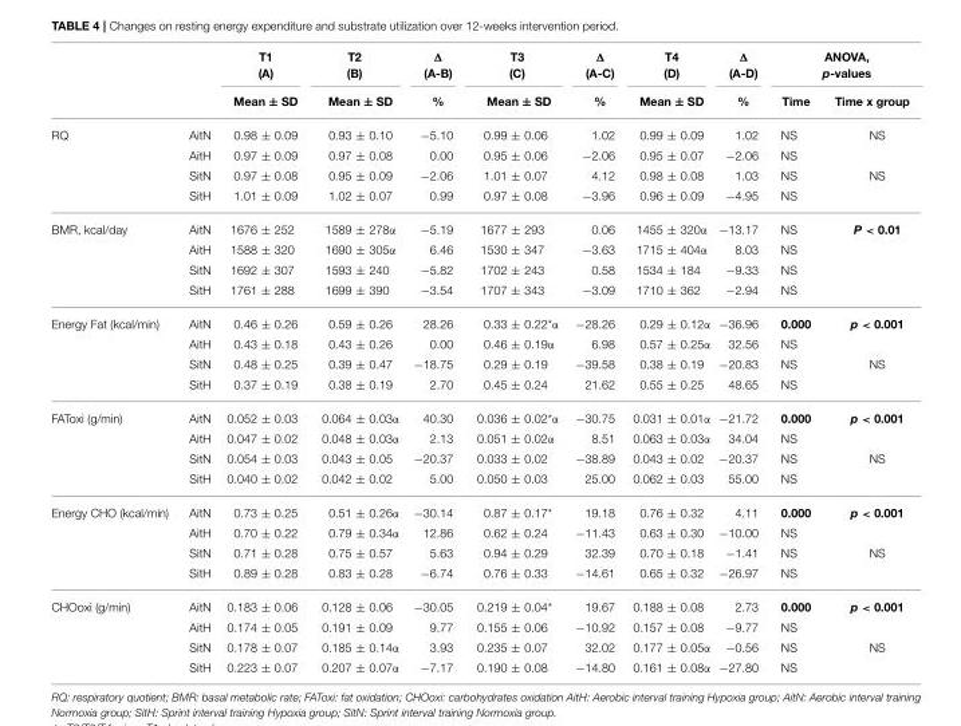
<table><thead><tr><td rowspan="2"></td><td rowspan="2"></td><td rowspan="2">T1 (A) Mean ± SD</td><td rowspan="2">T2 (B) Mean ± SD</td><td rowspan="2">Δ (A-B) %</td><td rowspan="2">T3 (C) Mean ± SD</td><td rowspan="2">Δ (A-C) %</td><td rowspan="2">T4 (D) Mean ± SD</td><td rowspan="2">Δ (A-D) %</td><td colspan="2">ANOVA, p-values</td></tr><tr><td>Time</td><td>Time x group</td></tr></thead><tbody><tr><td rowspan="4">RQ</td><td>AitN</td><td>0.98 ± 0.09</td><td>0.93 ± 0.10</td><td>−5.10</td><td>0.99 ± 0.06</td><td>1.02</td><td>0.99 ± 0.09</td><td>1.02</td><td>NS</td><td>NS</td></tr><tr><td>AitH</td><td>0.97 ± 0.09</td><td>0.97 ± 0.08</td><td>0.00</td><td>0.95 ± 0.06</td><td>−2.06</td><td>0.95 ± 0.07</td><td>−2.06</td><td>NS</td><td></td></tr><tr><td>SitN</td><td>0.97 ± 0.08</td><td>0.95 ± 0.09</td><td>−2.06</td><td>1.01 ± 0.07</td><td>4.12</td><td>0.98 ± 0.08</td><td>1.03</td><td>NS</td><td>NS</td></tr><tr><td>SitH</td><td>1.01 ± 0.09</td><td>1.02 ± 0.07</td><td>0.99</td><td>0.97 ± 0.08</td><td>−3.96</td><td>0.96 ± 0.09</td><td>−4.95</td><td>NS</td><td></td></tr><tr><td rowspan="4">BMR, kcal/day</td><td>AitN</td><td>1676 ± 252</td><td>1589 ± 278α</td><td>−5.19</td><td>1677 ± 293</td><td>0.06</td><td>1455 ± 320α</td><td>−13.17</td><td>NS</td><td>P &lt; 0.01</td></tr><tr><td>AitH</td><td>1588 ± 320</td><td>1690 ± 305α</td><td>6.46</td><td>1530 ± 347</td><td>−3.63</td><td>1715 ± 404α</td><td>8.03</td><td>NS</td><td></td></tr><tr><td>SitN</td><td>1692 ± 307</td><td>1593 ± 240</td><td>−5.82</td><td>1702 ± 243</td><td>0.58</td><td>1534 ± 184</td><td>−9.33</td><td>NS</td><td></td></tr><tr><td>SitH</td><td>1761 ± 288</td><td>1699 ± 390</td><td>−3.54</td><td>1707 ± 343</td><td>−3.09</td><td>1710 ± 362</td><td>−2.94</td><td>NS</td><td></td></tr><tr><td rowspan="4">Energy Fat (kcal/min)</td><td>AitN</td><td>0.46 ± 0.26</td><td>0.59 ± 0.26</td><td>28.26</td><td>0.33 ± 0.22*α</td><td>−28.26</td><td>0.29 ± 0.12α</td><td>−36.96</td><td>0.000</td><td>p &lt; 0.001</td></tr><tr><td>AitH</td><td>0.43 ± 0.18</td><td>0.43 ± 0.26</td><td>0.00</td><td>0.46 ± 0.19α</td><td>6.98</td><td>0.57 ± 0.25α</td><td>32.56</td><td>NS</td><td></td></tr><tr><td>SitN</td><td>0.48 ± 0.25</td><td>0.39 ± 0.47</td><td>−18.75</td><td>0.29 ± 0.19</td><td>−39.58</td><td>0.38 ± 0.19</td><td>−20.83</td><td>NS</td><td>NS</td></tr><tr><td>SitH</td><td>0.37 ± 0.19</td><td>0.38 ± 0.19</td><td>2.70</td><td>0.45 ± 0.24</td><td>21.62</td><td>0.55 ± 0.25</td><td>48.65</td><td>NS</td><td></td></tr><tr><td rowspan="4">FAToxi (g/min)</td><td>AitN</td><td>0.052 ± 0.03</td><td>0.064 ± 0.03α</td><td>40.30</td><td>0.036 ± 0.02*α</td><td>−30.75</td><td>0.031 ± 0.01α</td><td>−21.72</td><td>0.000</td><td>p &lt; 0.001</td></tr><tr><td>AitH</td><td>0.047 ± 0.02</td><td>0.048 ± 0.03α</td><td>2.13</td><td>0.051 ± 0.02α</td><td>8.51</td><td>0.063 ± 0.03α</td><td>34.04</td><td>NS</td><td></td></tr><tr><td>SitN</td><td>0.054 ± 0.03</td><td>0.043 ± 0.05</td><td>−20.37</td><td>0.033 ± 0.02</td><td>−38.89</td><td>0.043 ± 0.02</td><td>−20.37</td><td>NS</td><td>NS</td></tr><tr><td>SitH</td><td>0.040 ± 0.02</td><td>0.042 ± 0.02</td><td>5.00</td><td>0.050 ± 0.03</td><td>25.00</td><td>0.062 ± 0.03</td><td>55.00</td><td>NS</td><td></td></tr><tr><td rowspan="4">Energy CHO (kcal/min)</td><td>AitN</td><td>0.73 ± 0.25</td><td>0.51 ± 0.26α</td><td>−30.14</td><td>0.87 ± 0.17*</td><td>19.18</td><td>0.76 ± 0.32</td><td>4.11</td><td>0.000</td><td>p &lt; 0.001</td></tr><tr><td>AitH</td><td>0.70 ± 0.22</td><td>0.79 ± 0.34α</td><td>12.86</td><td>0.62 ± 0.24</td><td>−11.43</td><td>0.63 ± 0.30</td><td>−10.00</td><td>NS</td><td></td></tr><tr><td>SitN</td><td>0.71 ± 0.28</td><td>0.75 ± 0.57</td><td>5.63</td><td>0.94 ± 0.29</td><td>32.39</td><td>0.70 ± 0.18</td><td>−1.41</td><td>NS</td><td>NS</td></tr><tr><td>SitH</td><td>0.89 ± 0.28</td><td>0.83 ± 0.28</td><td>−6.74</td><td>0.76 ± 0.33</td><td>−14.61</td><td>0.65 ± 0.32</td><td>−26.97</td><td>NS</td><td></td></tr><tr><td rowspan="4">CHOoxi (g/min)</td><td>AitN</td><td>0.183 ± 0.06</td><td>0.128 ± 0.06</td><td>−30.05</td><td>0.219 ± 0.04*</td><td>19.67</td><td>0.188 ± 0.08</td><td>2.73</td><td>0.000</td><td>p &lt; 0.001</td></tr><tr><td>AitH</td><td>0.174 ± 0.05</td><td>0.191 ± 0.09</td><td>9.77</td><td>0.155 ± 0.06</td><td>−10.92</td><td>0.157 ± 0.08</td><td>−9.77</td><td>NS</td><td></td></tr><tr><td>SitN</td><td>0.178 ± 0.07</td><td>0.185 ± 0.14α</td><td>3.93</td><td>0.235 ± 0.07</td><td>32.02</td><td>0.177 ± 0.05α</td><td>−0.56</td><td>NS</td><td>NS</td></tr><tr><td>SitH</td><td>0.223 ± 0.07</td><td>0.207 ± 0.07α</td><td>−7.17</td><td>0.190 ± 0.08</td><td>−14.80</td><td>0.161 ± 0.08α</td><td>−27.80</td><td>NS</td><td></td></tr></tbody></table>